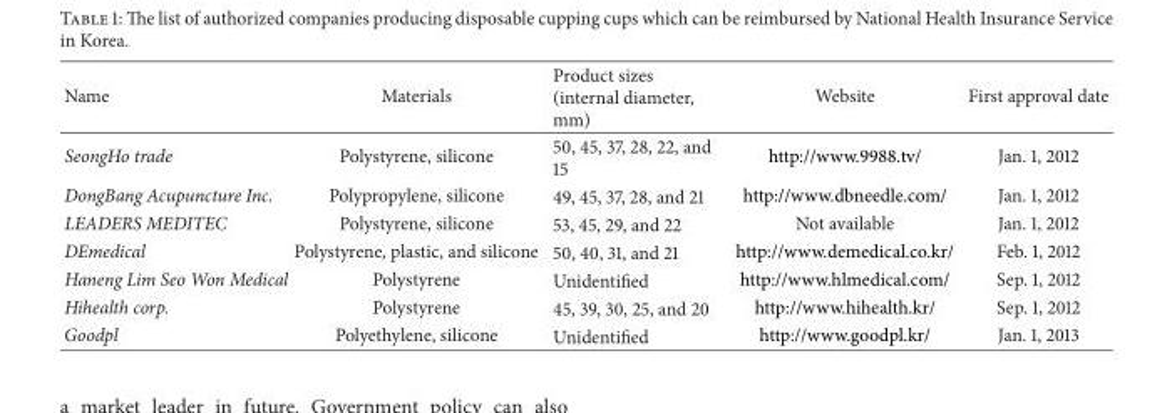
<table><thead><tr><td>Name</td><td>Materials</td><td>Product sizes (internal diameter, mm)</td><td>Website</td><td>First approval date</td></tr></thead><tbody><tr><td>SeongHo trade</td><td>Polystyrene, silicone</td><td>50, 45, 37, 28, 22, and 15</td><td>http://www.9988.tv/</td><td>Jan. 1, 2012</td></tr><tr><td>DongBang Acupuncture Inc.</td><td>Polypropylene, silicone</td><td>49, 45, 37, 28, and 21</td><td>http://www.dbneedle.com/</td><td>Jan. 1, 2012</td></tr><tr><td>LEADERS MEDITEC</td><td>Polystyrene, silicone</td><td>53, 45, 29, and 22</td><td>Not available</td><td>Jan. 1, 2012</td></tr><tr><td>DEmedical</td><td>Polystyrene, plastic, and silicone</td><td>50, 40, 31, and 21</td><td>http://www.demedical.co.kr/</td><td>Feb. 1, 2012</td></tr><tr><td>Haneng Lim Seo Won Medical</td><td>Polystyrene</td><td>Unidentified</td><td>http://www.hlmedical.com/</td><td>Sep. 1, 2012</td></tr><tr><td>Hihealth corp.</td><td>Polystyrene</td><td>45, 39, 30, 25, and 20</td><td>http://www.hihealth.kr/</td><td>Sep. 1, 2012</td></tr><tr><td>Goodpl</td><td>Polyethylene, silicone</td><td>Unidentified</td><td>http://www.goodpl.kr/</td><td>Jan. 1, 2013</td></tr></tbody></table>